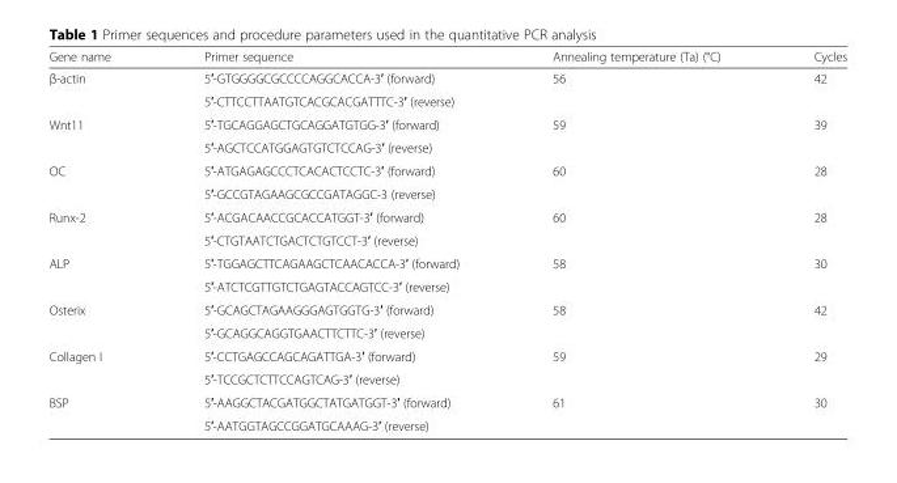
<table><thead><tr><td>Gene name</td><td>Primer sequence</td><td>Annealing temperature (Ta) (°C)</td><td>Cycles</td></tr></thead><tbody><tr><td rowspan="2">β-actin</td><td>5′-GTGGGGCGCCCCAGGCACCA-3′ (forward)</td><td rowspan="2">56</td><td rowspan="2">42</td></tr><tr><td>5′-CTTCCTTAATGTCACGCACGATTTC-3′ (reverse)</td></tr><tr><td rowspan="2">Wnt11</td><td>5′-TGCAGGAGCTGCAGGATGTGG-3′ (forward)</td><td rowspan="2">59</td><td rowspan="2">39</td></tr><tr><td>5′-AGCTCCATGGAGTGTCTCCAG-3′ (reverse)</td></tr><tr><td rowspan="2">OC</td><td>5′-ATGAGAGCCCTCACACTCCTC-3′ (forward)</td><td rowspan="2">60</td><td rowspan="2">28</td></tr><tr><td>5′-GCCGTAGAAGCGCCGATAGGC-3 (reverse)</td></tr><tr><td rowspan="2">Runx-2</td><td>5′-ACGACAACCGCACCATGGT-3′ (forward)</td><td rowspan="2">60</td><td rowspan="2">28</td></tr><tr><td>5′-CTGTAATCTGACTCTGTCCT-3′ (reverse)</td></tr><tr><td rowspan="2">ALP</td><td>5′-TGGAGCTTCAGAAGCTCAACACCA-3′ (forward)</td><td rowspan="2">58</td><td rowspan="2">30</td></tr><tr><td>5′-ATCTCGTTGTCTGAGTACCAGTCC-3′ (reverse)</td></tr><tr><td rowspan="2">Osterix</td><td>5′-GCAGCTAGAAGGGAGTGGTG-3′ (forward)</td><td rowspan="2">58</td><td rowspan="2">42</td></tr><tr><td>5′-GCAGGCAGGTGAACTTCTTC-3′ (reverse)</td></tr><tr><td rowspan="2">Collagen I</td><td>5′-CCTGAGCCAGCAGATTGA-3′ (forward)</td><td rowspan="2">59</td><td rowspan="2">29</td></tr><tr><td>5′-TCCGCTCTTCCAGTCAG-3′ (reverse)</td></tr><tr><td rowspan="2">BSP</td><td>5′-AAGGCTACGATGGCTATGATGGT-3′ (forward)</td><td rowspan="2">61</td><td rowspan="2">30</td></tr><tr><td>5′-AATGGTAGCCGGATGCAAAG-3′ (reverse)</td></tr></tbody></table>